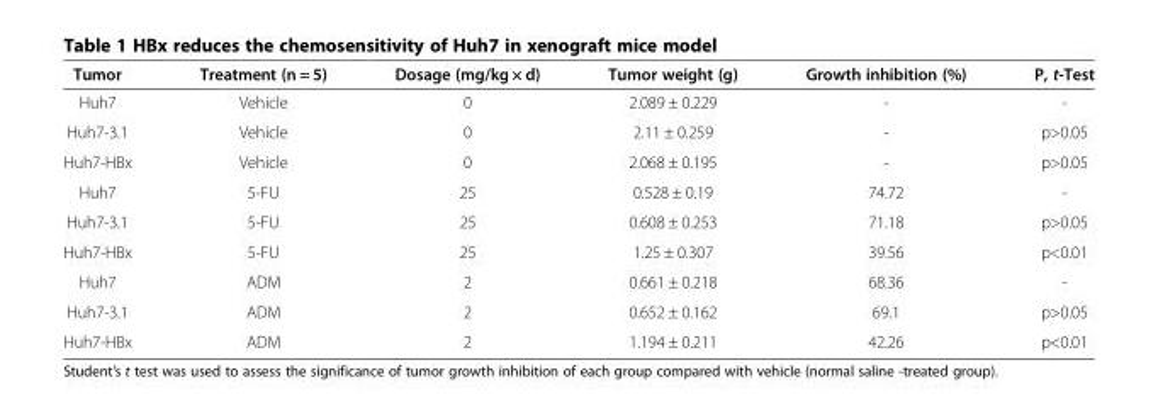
<table><thead><tr><td>Tumor</td><td>Treatment (n = 5)</td><td>Dosage (mg/kg × d)</td><td>Tumor weight (g)</td><td>Growth inhibition (%)</td><td>P, t-Test</td></tr></thead><tbody><tr><td>Huh7</td><td>Vehicle</td><td>0</td><td>2.089 ± 0.229</td><td>-</td><td>-</td></tr><tr><td>Huh7-3.1</td><td>Vehicle</td><td>0</td><td>2.11 ± 0.259</td><td>-</td><td>p&gt;0.05</td></tr><tr><td>Huh7-HBx</td><td>Vehicle</td><td>0</td><td>2.068 ± 0.195</td><td>-</td><td>p&gt;0.05</td></tr><tr><td>Huh7</td><td>5-FU</td><td>25</td><td>0.528 ± 0.19</td><td>74.72</td><td>-</td></tr><tr><td>Huh7-3.1</td><td>5-FU</td><td>25</td><td>0.608 ± 0.253</td><td>71.18</td><td>p&gt;0.05</td></tr><tr><td>Huh7-HBx</td><td>5-FU</td><td>25</td><td>1.25 ± 0.307</td><td>39.56</td><td>p&lt;0.01</td></tr><tr><td>Huh7</td><td>ADM</td><td>2</td><td>0.661 ± 0.218</td><td>68.36</td><td>-</td></tr><tr><td>Huh7-3.1</td><td>ADM</td><td>2</td><td>0.652 ± 0.162</td><td>69.1</td><td>p&gt;0.05</td></tr><tr><td>Huh7-HBx</td><td>ADM</td><td>2</td><td>1.194 ± 0.211</td><td>42.26</td><td>p&lt;0.01</td></tr></tbody></table>